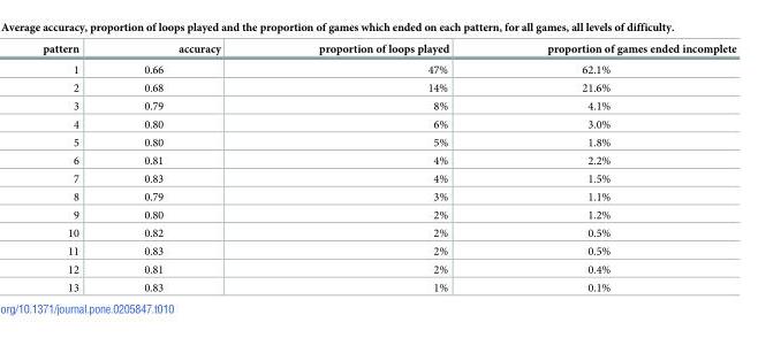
<table><thead><tr><td>pattern</td><td>accuracy</td><td>proportion of loops played</td><td>proportion of games ended incomplete</td></tr></thead><tbody><tr><td>1</td><td>0.66</td><td>47%</td><td>62.1%</td></tr><tr><td>2</td><td>0.68</td><td>14%</td><td>21.6%</td></tr><tr><td>3</td><td>0.79</td><td>8%</td><td>4.1%</td></tr><tr><td>4</td><td>0.80</td><td>6%</td><td>3.0%</td></tr><tr><td>5</td><td>0.80</td><td>5%</td><td>1.8%</td></tr><tr><td>6</td><td>0.81</td><td>4%</td><td>2.2%</td></tr><tr><td>7</td><td>0.83</td><td>4%</td><td>1.5%</td></tr><tr><td>8</td><td>0.79</td><td>3%</td><td>1.1%</td></tr><tr><td>9</td><td>0.80</td><td>2%</td><td>1.2%</td></tr><tr><td>10</td><td>0.82</td><td>2%</td><td>0.5%</td></tr><tr><td>11</td><td>0.83</td><td>2%</td><td>0.5%</td></tr><tr><td>12</td><td>0.81</td><td>2%</td><td>0.4%</td></tr><tr><td>13</td><td>0.83</td><td>1%</td><td>0.1%</td></tr></tbody></table>